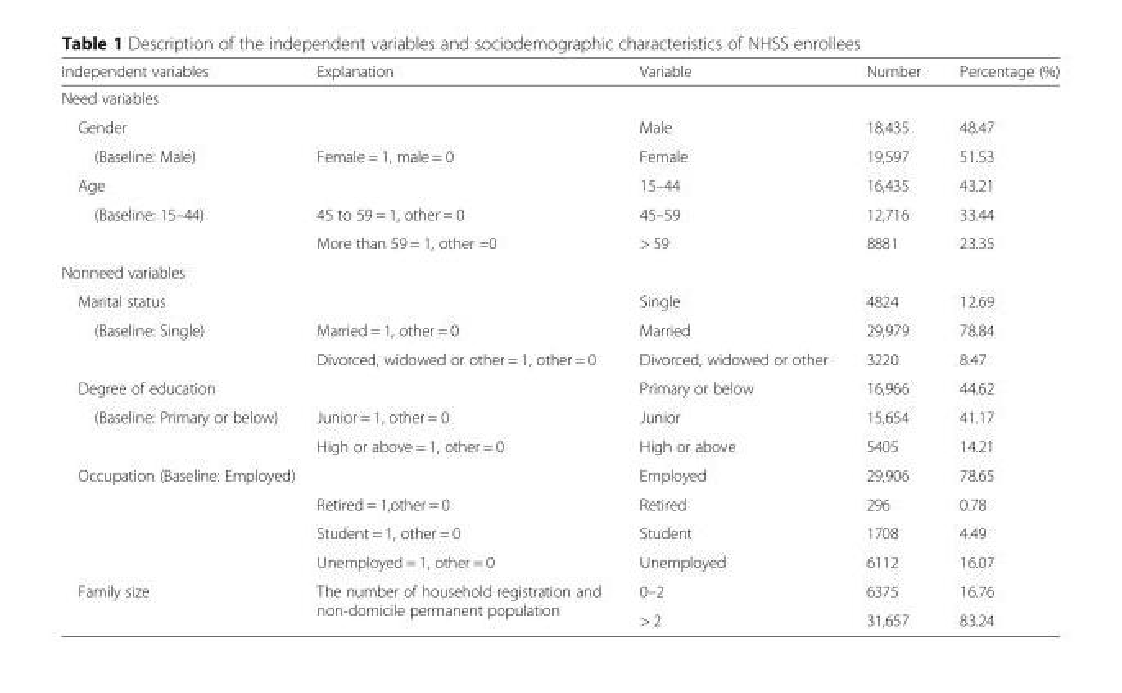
<table><thead><tr><td>Independent variables</td><td>Explanation</td><td>Variable</td><td>Number</td><td>Percentage (%)</td></tr></thead><tbody><tr><td colspan="5">Need variables</td></tr><tr><td colspan="2">Gender</td><td>Male</td><td>18,435</td><td>48.47</td></tr><tr><td>(Baseline: Male)</td><td>Female = 1, male = 0</td><td>Female</td><td>19,597</td><td>51.53</td></tr><tr><td colspan="2">Age</td><td>15–44</td><td>16,435</td><td>43.21</td></tr><tr><td rowspan="2">(Baseline: 15–44)</td><td>45 to 59 = 1, other = 0</td><td>45–59</td><td>12,716</td><td>33.44</td></tr><tr><td>More than 59 = 1, other =0</td><td>&gt; 59</td><td>8881</td><td>23.35</td></tr><tr><td colspan="5">Nonneed variables</td></tr><tr><td colspan="2">Marital status</td><td>Single</td><td>4824</td><td>12.69</td></tr><tr><td rowspan="2">(Baseline: Single)</td><td>Married = 1, other = 0</td><td>Married</td><td>29,979</td><td>78.84</td></tr><tr><td>Divorced, widowed or other = 1, other = 0</td><td>Divorced, widowed or other</td><td>3220</td><td>8.47</td></tr><tr><td colspan="2">Degree of education</td><td>Primary or below</td><td>16,966</td><td>44.62</td></tr><tr><td rowspan="2">(Baseline: Primary or below)</td><td>Junior = 1, other = 0</td><td>Junior</td><td>15,654</td><td>41.17</td></tr><tr><td>High or above = 1, other = 0</td><td>High or above</td><td>5405</td><td>14.21</td></tr><tr><td colspan="2">Occupation (Baseline: Employed)</td><td>Employed</td><td>29,906</td><td>78.65</td></tr><tr><td rowspan="3"></td><td>Retired = 1,other = 0</td><td>Retired</td><td>296</td><td>0.78</td></tr><tr><td>Student = 1, other = 0</td><td>Student</td><td>1708</td><td>4.49</td></tr><tr><td>Unemployed = 1, other = 0</td><td>Unemployed</td><td>6112</td><td>16.07</td></tr><tr><td rowspan="2">Family size</td><td rowspan="2">The number of household registration and non-domicile permanent population</td><td>0–2</td><td>6375</td><td>16.76</td></tr><tr><td>&gt; 2</td><td>31,657</td><td>83.24</td></tr></tbody></table>